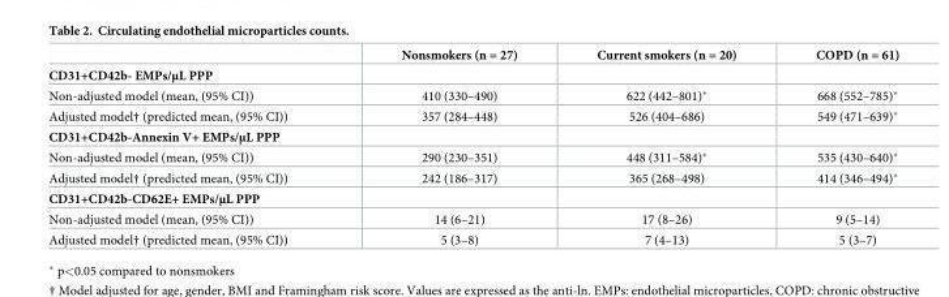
<table><thead><tr><td></td><td>Nonsmokers (n = 27)</td><td>Current smokers (n = 20)</td><td>COPD (n = 61)</td></tr></thead><tbody><tr><td colspan="4">CD31+CD42b- EMPs/μL PPP</td></tr><tr><td>Non-adjusted model (mean, (95% CI))</td><td>410 (330–490)</td><td>622 (442–801)*</td><td>668 (552–785)*</td></tr><tr><td>Adjusted model† (predicted mean, (95% CI))</td><td>357 (284–448)</td><td>526 (404–686)</td><td>549 (471–639)*</td></tr><tr><td colspan="4">CD31+CD42b-Annexin V+ EMPs/μL PPP</td></tr><tr><td>Non-adjusted model (mean, (95% CI))</td><td>290 (230–351)</td><td>448 (311–584)*</td><td>535 (430–640)*</td></tr><tr><td>Adjusted model† (predicted mean, (95% CI))</td><td>242 (186–317)</td><td>365 (268–498)</td><td>414 (346–494)*</td></tr><tr><td colspan="4">CD31+CD42b-CD62E+ EMPs/μL PPP</td></tr><tr><td>Non-adjusted model (mean, (95% CI))</td><td>14 (6–21)</td><td>17 (8–26)</td><td>9 (5–14)</td></tr><tr><td>Adjusted model† (predicted mean, (95% CI))</td><td>5 (3–8)</td><td>7 (4–13)</td><td>5 (3–7)</td></tr></tbody></table>